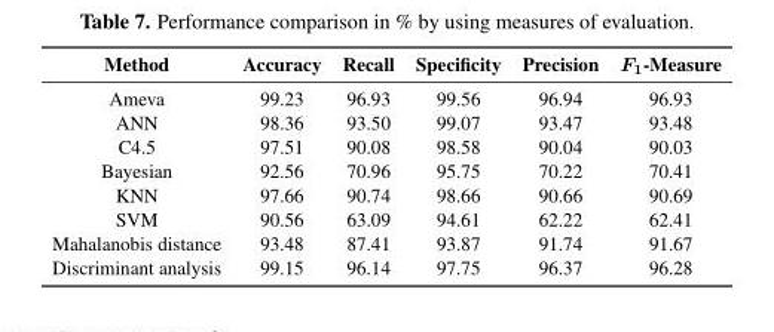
<table><thead><tr><td>Method</td><td>Accuracy</td><td>Recall</td><td>Specificity</td><td>Precision</td><td>F<sub>1</sub>-Measure</td></tr></thead><tbody><tr><td>Ameva</td><td>99.23</td><td>96.93</td><td>99.56</td><td>96.94</td><td>96.93</td></tr><tr><td>ANN</td><td>98.36</td><td>93.50</td><td>99.07</td><td>93.47</td><td>93.48</td></tr><tr><td>C4.5</td><td>97.51</td><td>90.08</td><td>98.58</td><td>90.04</td><td>90.03</td></tr><tr><td>Bayesian</td><td>92.56</td><td>70.96</td><td>95.75</td><td>70.22</td><td>70.41</td></tr><tr><td>KNN</td><td>97.66</td><td>90.74</td><td>98.66</td><td>90.66</td><td>90.69</td></tr><tr><td>SVM</td><td>90.56</td><td>63.09</td><td>94.61</td><td>62.22</td><td>62.41</td></tr><tr><td>Mahalanobis distance</td><td>93.48</td><td>87.41</td><td>93.87</td><td>91.74</td><td>91.67</td></tr><tr><td>Discriminant analysis</td><td>99.15</td><td>96.14</td><td>97.75</td><td>96.37</td><td>96.28</td></tr></tbody></table>